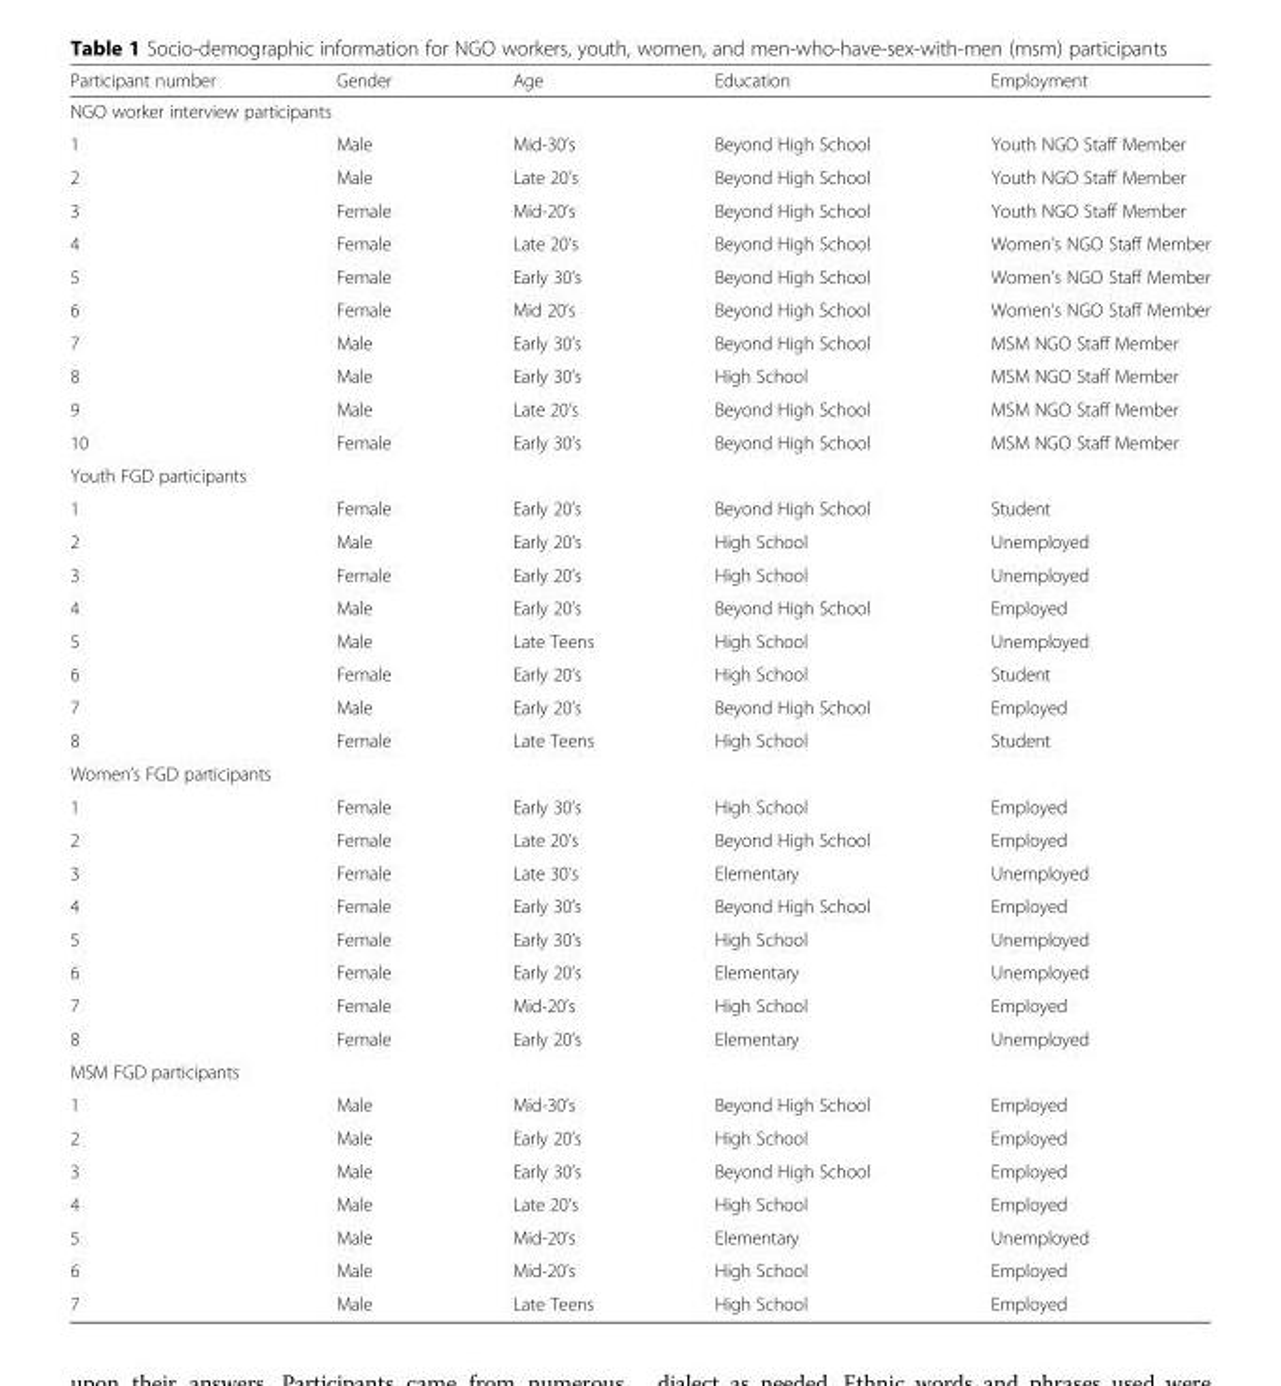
<table><thead><tr><td>Participant number</td><td>Gender</td><td>Age</td><td>Education</td><td>Employment</td></tr></thead><tbody><tr><td colspan="5">NGO worker interview participants</td></tr><tr><td>1</td><td>Male</td><td>Mid-30’s</td><td>Beyond High School</td><td>Youth NGO Staff Member</td></tr><tr><td>2</td><td>Male</td><td>Late 20’s</td><td>Beyond High School</td><td>Youth NGO Staff Member</td></tr><tr><td>3</td><td>Female</td><td>Mid-20’s</td><td>Beyond High School</td><td>Youth NGO Staff Member</td></tr><tr><td>4</td><td>Female</td><td>Late 20’s</td><td>Beyond High School</td><td>Women’s NGO Staff Member</td></tr><tr><td>5</td><td>Female</td><td>Early 30’s</td><td>Beyond High School</td><td>Women’s NGO Staff Member</td></tr><tr><td>6</td><td>Female</td><td>Mid 20’s</td><td>Beyond High School</td><td>Women’s NGO Staff Member</td></tr><tr><td>7</td><td>Male</td><td>Early 30’s</td><td>Beyond High School</td><td>MSM NGO Staff Member</td></tr><tr><td>8</td><td>Male</td><td>Early 30’s</td><td>High School</td><td>MSM NGO Staff Member</td></tr><tr><td>9</td><td>Male</td><td>Late 20’s</td><td>Beyond High School</td><td>MSM NGO Staff Member</td></tr><tr><td>10</td><td>Female</td><td>Early 30’s</td><td>Beyond High School</td><td>MSM NGO Staff Member</td></tr><tr><td colspan="5">Youth FGD participants</td></tr><tr><td>1</td><td>Female</td><td>Early 20’s</td><td>Beyond High School</td><td>Student</td></tr><tr><td>2</td><td>Male</td><td>Early 20’s</td><td>High School</td><td>Unemployed</td></tr><tr><td>3</td><td>Female</td><td>Early 20’s</td><td>High School</td><td>Unemployed</td></tr><tr><td>4</td><td>Male</td><td>Early 20’s</td><td>Beyond High School</td><td>Employed</td></tr><tr><td>5</td><td>Male</td><td>Late Teens</td><td>High School</td><td>Unemployed</td></tr><tr><td>6</td><td>Female</td><td>Early 20’s</td><td>High School</td><td>Student</td></tr><tr><td>7</td><td>Male</td><td>Early 20’s</td><td>Beyond High School</td><td>Employed</td></tr><tr><td>8</td><td>Female</td><td>Late Teens</td><td>High School</td><td>Student</td></tr><tr><td colspan="5">Women’s FGD participants</td></tr><tr><td>1</td><td>Female</td><td>Early 30’s</td><td>High School</td><td>Employed</td></tr><tr><td>2</td><td>Female</td><td>Late 20’s</td><td>Beyond High School</td><td>Employed</td></tr><tr><td>3</td><td>Female</td><td>Late 30’s</td><td>Elementary</td><td>Unemployed</td></tr><tr><td>4</td><td>Female</td><td>Early 30’s</td><td>Beyond High School</td><td>Employed</td></tr><tr><td>5</td><td>Female</td><td>Early 30’s</td><td>High School</td><td>Unemployed</td></tr><tr><td>6</td><td>Female</td><td>Early 20’s</td><td>Elementary</td><td>Unemployed</td></tr><tr><td>7</td><td>Female</td><td>Mid-20’s</td><td>High School</td><td>Employed</td></tr><tr><td>8</td><td>Female</td><td>Early 20’s</td><td>Elementary</td><td>Unemployed</td></tr><tr><td colspan="5">MSM FGD participants</td></tr><tr><td>1</td><td>Male</td><td>Mid-30’s</td><td>Beyond High School</td><td>Employed</td></tr><tr><td>2</td><td>Male</td><td>Early 20’s</td><td>High School</td><td>Employed</td></tr><tr><td>3</td><td>Male</td><td>Early 30’s</td><td>Beyond High School</td><td>Employed</td></tr><tr><td>4</td><td>Male</td><td>Late 20’s</td><td>High School</td><td>Employed</td></tr><tr><td>5</td><td>Male</td><td>Mid-20’s</td><td>Elementary</td><td>Unemployed</td></tr><tr><td>6</td><td>Male</td><td>Mid-20’s</td><td>High School</td><td>Employed</td></tr><tr><td>7</td><td>Male</td><td>Late Teens</td><td>High School</td><td>Employed</td></tr></tbody></table>